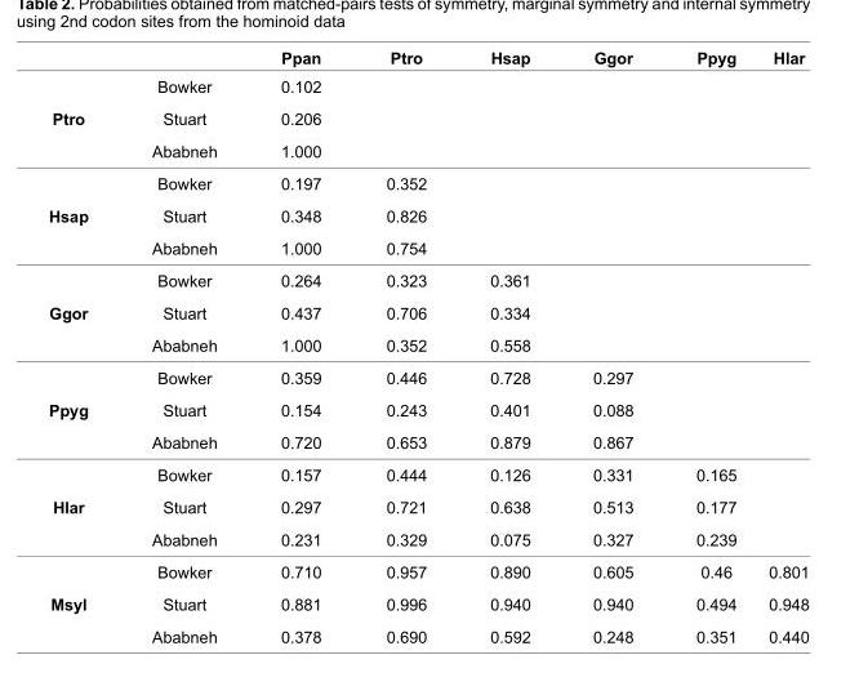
<table><thead><tr><td></td><td></td><td>Ppan</td><td>Ptro</td><td>Hsap</td><td>Ggor</td><td>Ppyg</td><td>Hlar</td></tr></thead><tbody><tr><td></td><td>Bowker</td><td>0.102</td><td></td><td></td><td></td><td></td><td></td></tr><tr><td rowspan="3">Ptro</td><td>Stuart</td><td>0.206</td><td></td><td></td><td></td><td></td><td></td></tr><tr><td>Ababneh</td><td>1.000</td><td></td><td></td><td></td><td></td><td></td></tr><tr><td>Bowker</td><td>0.197</td><td>0.352</td><td></td><td></td><td></td><td></td></tr><tr><td rowspan="3">Hsap</td><td>Stuart</td><td>0.348</td><td>0.826</td><td></td><td></td><td></td><td></td></tr><tr><td>Ababneh</td><td>1.000</td><td>0.754</td><td></td><td></td><td></td><td></td></tr><tr><td>Bowker</td><td>0.264</td><td>0.323</td><td>0.361</td><td></td><td></td><td></td></tr><tr><td rowspan="3">Ggor</td><td>Stuart</td><td>0.437</td><td>0.706</td><td>0.334</td><td></td><td></td><td></td></tr><tr><td>Ababneh</td><td>1.000</td><td>0.352</td><td>0.558</td><td></td><td></td><td></td></tr><tr><td>Bowker</td><td>0.359</td><td>0.446</td><td>0.728</td><td>0.297</td><td></td><td></td></tr><tr><td rowspan="3">Ppyg</td><td>Stuart</td><td>0.154</td><td>0.243</td><td>0.401</td><td>0.088</td><td></td><td></td></tr><tr><td>Ababneh</td><td>0.720</td><td>0.653</td><td>0.879</td><td>0.867</td><td></td><td></td></tr><tr><td>Bowker</td><td>0.157</td><td>0.444</td><td>0.126</td><td>0.331</td><td>0.165</td><td></td></tr><tr><td rowspan="3">Hlar</td><td>Stuart</td><td>0.297</td><td>0.721</td><td>0.638</td><td>0.513</td><td>0.177</td><td></td></tr><tr><td>Ababneh</td><td>0.231</td><td>0.329</td><td>0.075</td><td>0.327</td><td>0.239</td><td></td></tr><tr><td>Bowker</td><td>0.710</td><td>0.957</td><td>0.890</td><td>0.605</td><td>0.46</td><td>0.801</td></tr><tr><td rowspan="2">Msyl</td><td>Stuart</td><td>0.881</td><td>0.996</td><td>0.940</td><td>0.940</td><td>0.494</td><td>0.948</td></tr><tr><td>Ababneh</td><td>0.378</td><td>0.690</td><td>0.592</td><td>0.248</td><td>0.351</td><td>0.440</td></tr></tbody></table>